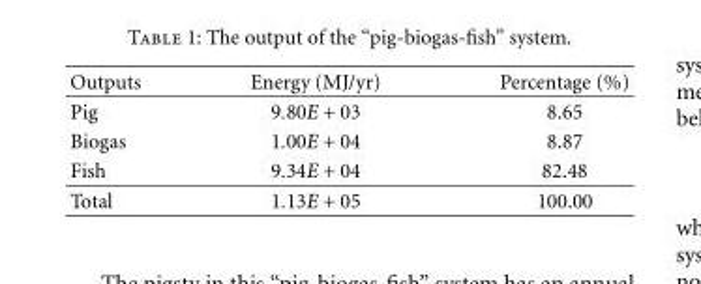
<table><thead><tr><td>Outputs</td><td>Energy (MJ/yr)</td><td>Percentage (%)</td></tr></thead><tbody><tr><td>Pig</td><td>9.80E + 03</td><td>8.65</td></tr><tr><td>Biogas</td><td>1.00E + 04</td><td>8.87</td></tr><tr><td>Fish</td><td>9.34E + 04</td><td>82.48</td></tr><tr><td>Total</td><td>1.13E + 05</td><td>100.00</td></tr></tbody></table>